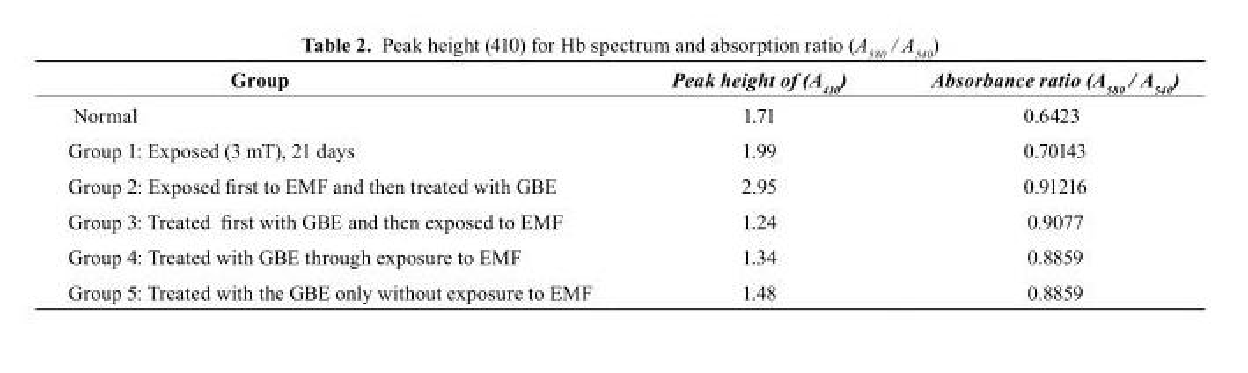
<table><thead><tr><td>Group</td><td>Peak height of (A<sub>410</sub>)</td><td>Absorbance ratio (A<sub>580</sub> / A<sub>540</sub>)</td></tr></thead><tbody><tr><td>Normal</td><td>1.71</td><td>0.6423</td></tr><tr><td>Group 1: Exposed (3 mT), 21 days</td><td>1.99</td><td>0.70143</td></tr><tr><td>Group 2: Exposed first to EMF and then treated with GBE</td><td>2.95</td><td>0.91216</td></tr><tr><td>Group 3: Treated first with GBE and then exposed to EMF</td><td>1.24</td><td>0.9077</td></tr><tr><td>Group 4: Treated with GBE through exposure to EMF</td><td>1.34</td><td>0.8859</td></tr><tr><td>Group 5: Treated with the GBE only without exposure to EMF</td><td>1.48</td><td>0.8859</td></tr></tbody></table>